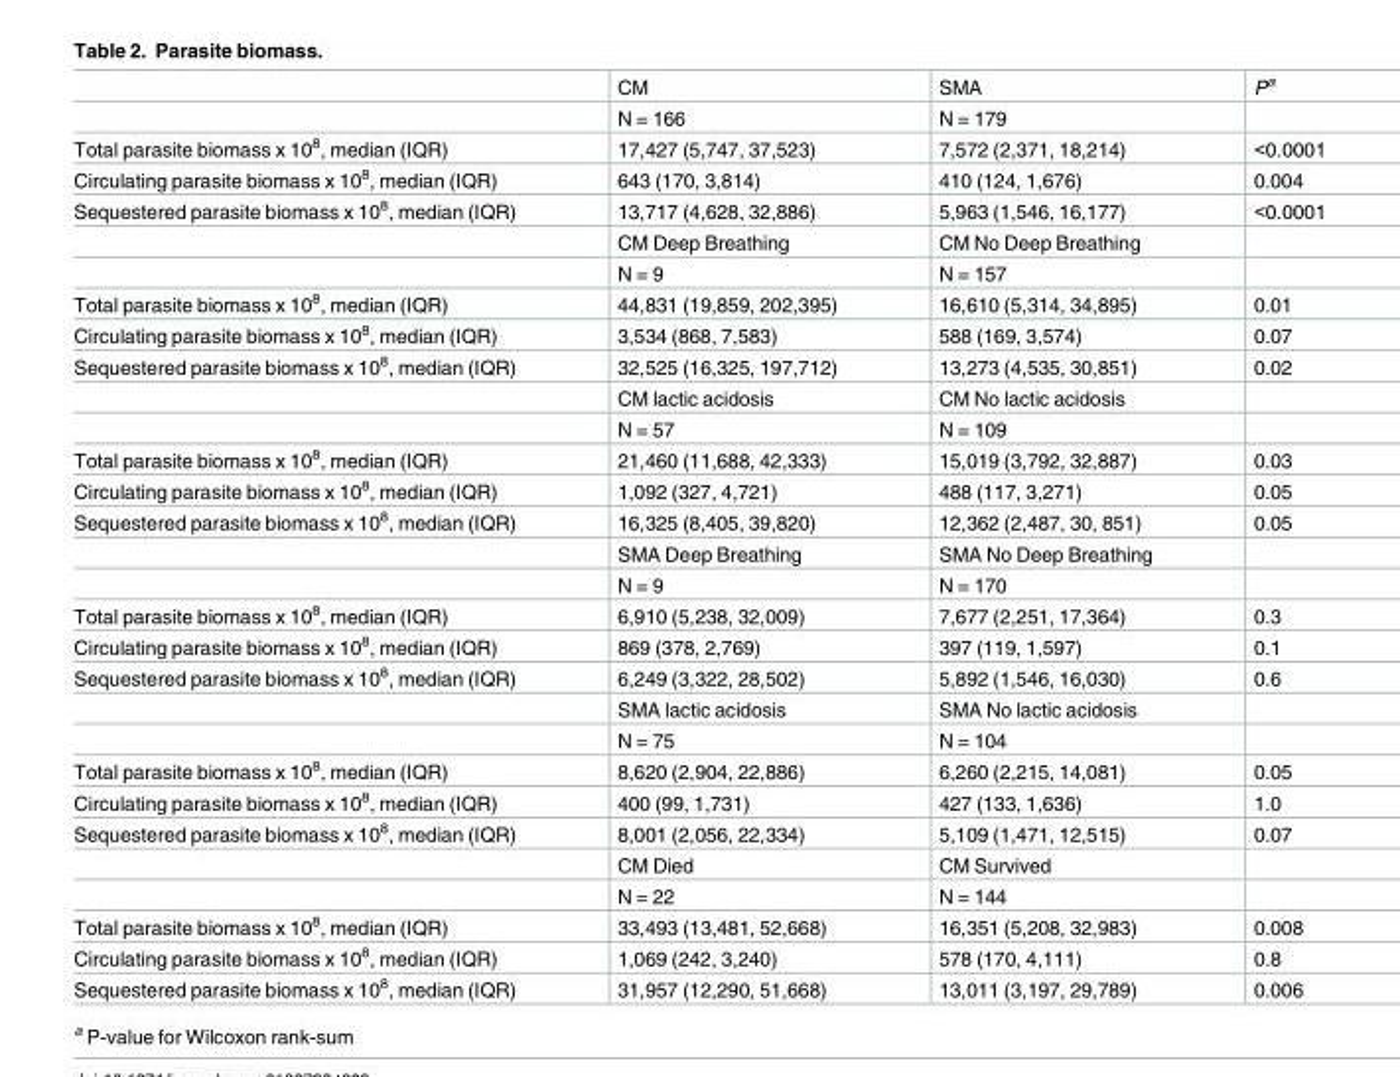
<table><thead><tr><td></td><td>CM</td><td>SMA</td><td>P<sup>a</sup></td></tr></thead><tbody><tr><td></td><td>N = 166</td><td>N = 179</td><td></td></tr><tr><td>Total parasite biomass x 10<sup>8</sup>, median (IQR)</td><td>17,427 (5,747, 37,523)</td><td>7,572 (2,371, 18,214)</td><td>&lt;0.0001</td></tr><tr><td>Circulating parasite biomass x 10<sup>8</sup>, median (IQR)</td><td>643 (170, 3,814)</td><td>410 (124, 1,676)</td><td>0.004</td></tr><tr><td rowspan="3">Sequestered parasite biomass x 10<sup>8</sup>, median (IQR)</td><td>13,717 (4,628, 32,886)</td><td>5,963 (1,546, 16,177)</td><td>&lt;0.0001</td></tr><tr><td>CM Deep Breathing</td><td>CM No Deep Breathing</td><td></td></tr><tr><td>N = 9</td><td>N = 157</td><td></td></tr><tr><td>Total parasite biomass x 10<sup>8</sup>, median (IQR)</td><td>44,831 (19,859, 202,395)</td><td>16,610 (5,314, 34,895)</td><td>0.01</td></tr><tr><td>Circulating parasite biomass x 10<sup>8</sup>, median (IQR)</td><td>3,534 (868, 7,583)</td><td>588 (169, 3,574)</td><td>0.07</td></tr><tr><td rowspan="3">Sequestered parasite biomass x 10<sup>8</sup>, median (IQR)</td><td>32,525 (16,325, 197,712)</td><td>13,273 (4,535, 30,851)</td><td>0.02</td></tr><tr><td>CM lactic acidosis</td><td>CM No lactic acidosis</td><td></td></tr><tr><td>N = 57</td><td>N = 109</td><td></td></tr><tr><td>Total parasite biomass x 10<sup>8</sup>, median (IQR)</td><td>21,460 (11,688, 42,333)</td><td>15,019 (3,792, 32,887)</td><td>0.03</td></tr><tr><td>Circulating parasite biomass x 10<sup>8</sup>, median (IQR)</td><td>1,092 (327, 4,721)</td><td>488 (117, 3,271)</td><td>0.05</td></tr><tr><td rowspan="3">Sequestered parasite biomass x 10<sup>8</sup>, median (IQR)</td><td>16,325 (8,405, 39,820)</td><td>12,362 (2,487, 30, 851)</td><td>0.05</td></tr><tr><td>SMA Deep Breathing</td><td>SMA No Deep Breathing</td><td></td></tr><tr><td>N = 9</td><td>N = 170</td><td></td></tr><tr><td>Total parasite biomass x 10<sup>8</sup>, median (IQR)</td><td>6,910 (5,238, 32,009)</td><td>7,677 (2,251, 17,364)</td><td>0.3</td></tr><tr><td>Circulating parasite biomass x 10<sup>8</sup>, median (IQR)</td><td>869 (378, 2,769)</td><td>397 (119, 1,597)</td><td>0.1</td></tr><tr><td rowspan="3">Sequestered parasite biomass x 10<sup>8</sup>, median (IQR)</td><td>6,249 (3,322, 28,502)</td><td>5,892 (1,546, 16,030)</td><td>0.6</td></tr><tr><td>SMA lactic acidosis</td><td>SMA No lactic acidosis</td><td></td></tr><tr><td>N = 75</td><td>N = 104</td><td></td></tr><tr><td>Total parasite biomass x 10<sup>8</sup>, median (IQR)</td><td>8,620 (2,904, 22,886)</td><td>6,260 (2,215, 14,081)</td><td>0.05</td></tr><tr><td>Circulating parasite biomass x 10<sup>8</sup>, median (IQR)</td><td>400 (99, 1,731)</td><td>427 (133, 1,636)</td><td>1.0</td></tr><tr><td rowspan="3">Sequestered parasite biomass x 10<sup>8</sup>, median (IQR)</td><td>8,001 (2,056, 22,334)</td><td>5,109 (1,471, 12,515)</td><td>0.07</td></tr><tr><td>CM Died</td><td>CM Survived</td><td></td></tr><tr><td>N = 22</td><td>N = 144</td><td></td></tr><tr><td>Total parasite biomass x 10<sup>8</sup>, median (IQR)</td><td>33,493 (13,481, 52,668)</td><td>16,351 (5,208, 32,983)</td><td>0.008</td></tr><tr><td>Circulating parasite biomass x 10<sup>8</sup>, median (IQR)</td><td>1,069 (242, 3,240)</td><td>578 (170, 4,111)</td><td>0.8</td></tr><tr><td>Sequestered parasite biomass x 10<sup>8</sup>, median (IQR)</td><td>31,957 (12,290, 51,668)</td><td>13,011 (3,197, 29,789)</td><td>0.006</td></tr></tbody></table>